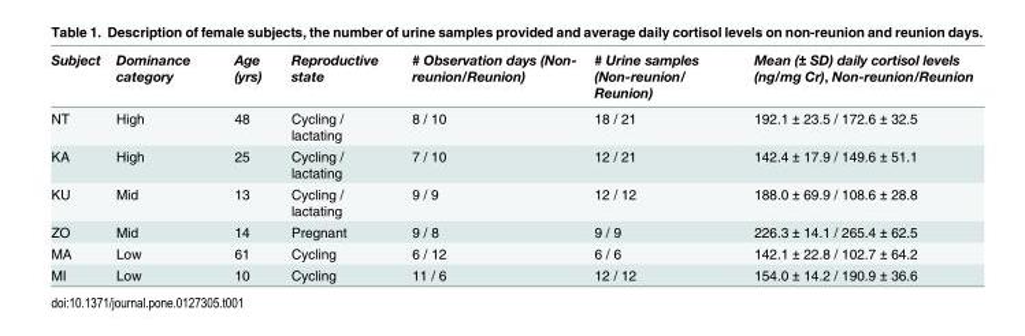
<table><thead><tr><td>Subject</td><td>Dominance category</td><td>Age (yrs)</td><td>Reproductive state</td><td># Observation days (Non- reunion/Reunion)</td><td># Urine samples (Non-reunion/ Reunion)</td><td>Mean (± SD) daily cortisol levels (ng/mg Cr), Non-reunion/Reunion</td></tr></thead><tbody><tr><td>NT</td><td>High</td><td>48</td><td>Cycling / lactating</td><td>8 / 10</td><td>18 / 21</td><td>192.1 ± 23.5 / 172.6 ± 32.5</td></tr><tr><td>KA</td><td>High</td><td>25</td><td>Cycling / lactating</td><td>7 / 10</td><td>12 / 21</td><td>142.4 ± 17.9 / 149.6 ± 51.1</td></tr><tr><td>KU</td><td>Mid</td><td>13</td><td>Cycling / lactating</td><td>9 / 9</td><td>12 / 12</td><td>188.0 ± 69.9 / 108.6 ± 28.8</td></tr><tr><td>ZO</td><td>Mid</td><td>14</td><td>Pregnant</td><td>9 / 8</td><td>9 / 9</td><td>226.3 ± 14.1 / 265.4 ± 62.5</td></tr><tr><td>MA</td><td>Low</td><td>61</td><td>Cycling</td><td>6 / 12</td><td>6 / 6</td><td>142.1 ± 22.8 / 102.7 ± 64.2</td></tr><tr><td>MI</td><td>Low</td><td>10</td><td>Cycling</td><td>11 / 6</td><td>12 / 12</td><td>154.0 ± 14.2 / 190.9 ± 36.6</td></tr></tbody></table>